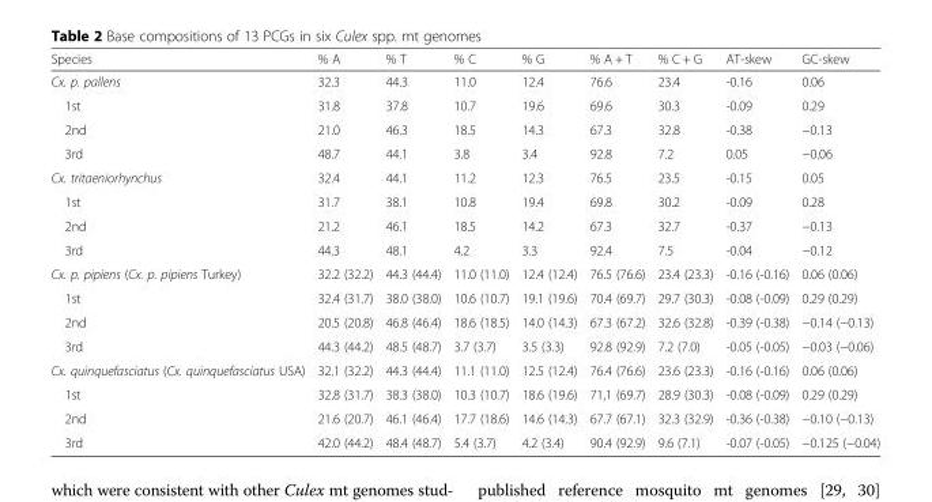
<table><thead><tr><td>Species</td><td>% A</td><td>% T</td><td>% C</td><td>% G</td><td>% A + T</td><td>% C + G</td><td>AT-skew</td><td>GC-skew</td></tr></thead><tbody><tr><td>Cx. p. pallens</td><td>32.3</td><td>44.3</td><td>11.0</td><td>12.4</td><td>76.6</td><td>23.4</td><td>-0.16</td><td>0.06</td></tr><tr><td>1st</td><td>31.8</td><td>37.8</td><td>10.7</td><td>19.6</td><td>69.6</td><td>30.3</td><td>-0.09</td><td>0.29</td></tr><tr><td>2nd</td><td>21.0</td><td>46.3</td><td>18.5</td><td>14.3</td><td>67.3</td><td>32.8</td><td>-0.38</td><td>−0.13</td></tr><tr><td>3rd</td><td>48.7</td><td>44.1</td><td>3.8</td><td>3.4</td><td>92.8</td><td>7.2</td><td>0.05</td><td>−0.06</td></tr><tr><td>Cx. tritaeniorhynchus</td><td>32.4</td><td>44.1</td><td>11.2</td><td>12.3</td><td>76.5</td><td>23.5</td><td>-0.15</td><td>0.05</td></tr><tr><td>1st</td><td>31.7</td><td>38.1</td><td>10.8</td><td>19.4</td><td>69.8</td><td>30.2</td><td>-0.09</td><td>0.28</td></tr><tr><td>2nd</td><td>21.2</td><td>46.1</td><td>18.5</td><td>14.2</td><td>67.3</td><td>32.7</td><td>-0.37</td><td>−0.13</td></tr><tr><td>3rd</td><td>44.3</td><td>48.1</td><td>4.2</td><td>3.3</td><td>92.4</td><td>7.5</td><td>-0.04</td><td>−0.12</td></tr><tr><td>Cx. p. pipiens (Cx. p. pipiens Turkey)</td><td>32.2 (32.2)</td><td>44.3 (44.4)</td><td>11.0 (11.0)</td><td>12.4 (12.4)</td><td>76.5 (76.6)</td><td>23.4 (23.3)</td><td>-0.16 (-0.16)</td><td>0.06 (0.06)</td></tr><tr><td>1st</td><td>32.4 (31.7)</td><td>38.0 (38.0)</td><td>10.6 (10.7)</td><td>19.1 (19.6)</td><td>70.4 (69.7)</td><td>29.7 (30.3)</td><td>-0.08 (-0.09)</td><td>0.29 (0.29)</td></tr><tr><td>2nd</td><td>20.5 (20.8)</td><td>46.8 (46.4)</td><td>18.6 (18.5)</td><td>14.0 (14.3)</td><td>67.3 (67.2)</td><td>32.6 (32.8)</td><td>-0.39 (-0.38)</td><td>−0.14 (−0.13)</td></tr><tr><td>3rd</td><td>44.3 (44.2)</td><td>48.5 (48.7)</td><td>3.7 (3.7)</td><td>3.5 (3.3)</td><td>92.8 (92.9)</td><td>7.2 (7.0)</td><td>-0.05 (-0.05)</td><td>−0.03 (−0.06)</td></tr><tr><td>Cx. quinquefasciatus (Cx. quinquefasciatus USA)</td><td>32.1 (32.2)</td><td>44.3 (44.4)</td><td>11.1 (11.0)</td><td>12.5 (12.4)</td><td>76.4 (76.6)</td><td>23.6 (23.3)</td><td>-0.16 (-0.16)</td><td>0.06 (0.06)</td></tr><tr><td>1st</td><td>32.8 (31.7)</td><td>38.3 (38.0)</td><td>10.3 (10.7)</td><td>18.6 (19.6)</td><td>71,1 (69.7)</td><td>28.9 (30.3)</td><td>-0.08 (-0.09)</td><td>0.29 (0.29)</td></tr><tr><td>2nd</td><td>21.6 (20.7)</td><td>46.1 (46.4)</td><td>17.7 (18.6)</td><td>14.6 (14.3)</td><td>67.7 (67.1)</td><td>32.3 (32.9)</td><td>-0.36 (-0.38)</td><td>−0.10 (−0.13)</td></tr><tr><td>3rd</td><td>42.0 (44.2)</td><td>48.4 (48.7)</td><td>5.4 (3.7)</td><td>4.2 (3.4)</td><td>90.4 (92.9)</td><td>9.6 (7.1)</td><td>-0.07 (-0.05)</td><td>−0.125 (−0.04)</td></tr></tbody></table>